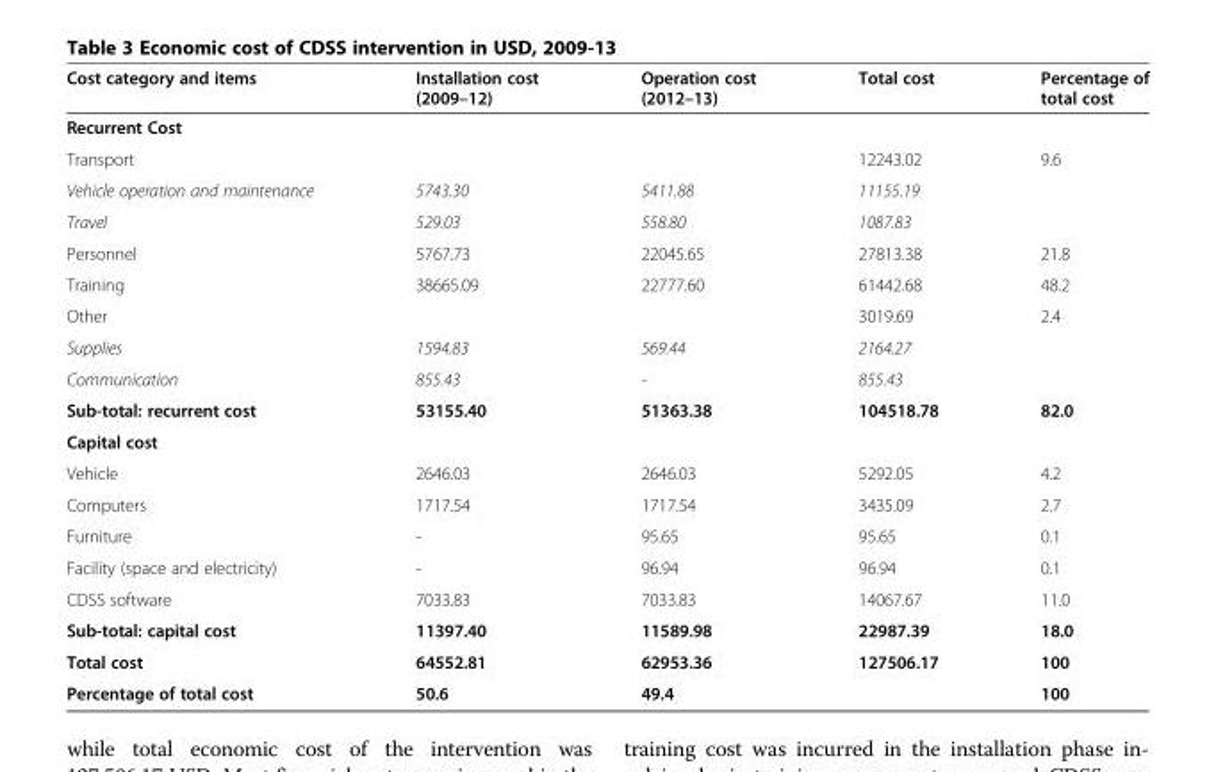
<table><thead><tr><td>Cost category and items</td><td>Installation cost (2009–12)</td><td>Operation cost (2012–13)</td><td>Total cost</td><td>Percentage of total cost</td></tr></thead><tbody><tr><td colspan="5">Recurrent Cost</td></tr><tr><td>Transport</td><td></td><td></td><td>12243.02</td><td>9.6</td></tr><tr><td>Vehicle operation and maintenance</td><td>5743.30</td><td>5411.88</td><td>11155.19</td><td></td></tr><tr><td>Travel</td><td>529.03</td><td>558.80</td><td>1087.83</td><td></td></tr><tr><td>Personnel</td><td>5767.73</td><td>22045.65</td><td>27813.38</td><td>21.8</td></tr><tr><td>Training</td><td>38665.09</td><td>22777.60</td><td>61442.68</td><td>48.2</td></tr><tr><td>Other</td><td></td><td></td><td>3019.69</td><td>2.4</td></tr><tr><td>Supplies</td><td>1594.83</td><td>569.44</td><td>2164.27</td><td></td></tr><tr><td>Communication</td><td>855.43</td><td>-</td><td>855.43</td><td></td></tr><tr><td>Sub-total: recurrent cost</td><td>53155.40</td><td>51363.38</td><td>104518.78</td><td>82.0</td></tr><tr><td colspan="5">Capital cost</td></tr><tr><td>Vehicle</td><td>2646.03</td><td>2646.03</td><td>5292.05</td><td>4.2</td></tr><tr><td>Computers</td><td>1717.54</td><td>1717.54</td><td>3435.09</td><td>2.7</td></tr><tr><td>Furniture</td><td>-</td><td>95.65</td><td>95.65</td><td>0.1</td></tr><tr><td>Facility (space and electricity)</td><td>-</td><td>96.94</td><td>96.94</td><td>0.1</td></tr><tr><td>CDSS software</td><td>7033.83</td><td>7033.83</td><td>14067.67</td><td>11.0</td></tr><tr><td>Sub-total: capital cost</td><td>11397.40</td><td>11589.98</td><td>22987.39</td><td>18.0</td></tr><tr><td>Total cost</td><td>64552.81</td><td>62953.36</td><td>127506.17</td><td>100</td></tr><tr><td>Percentage of total cost</td><td>50.6</td><td>49.4</td><td></td><td>100</td></tr></tbody></table>